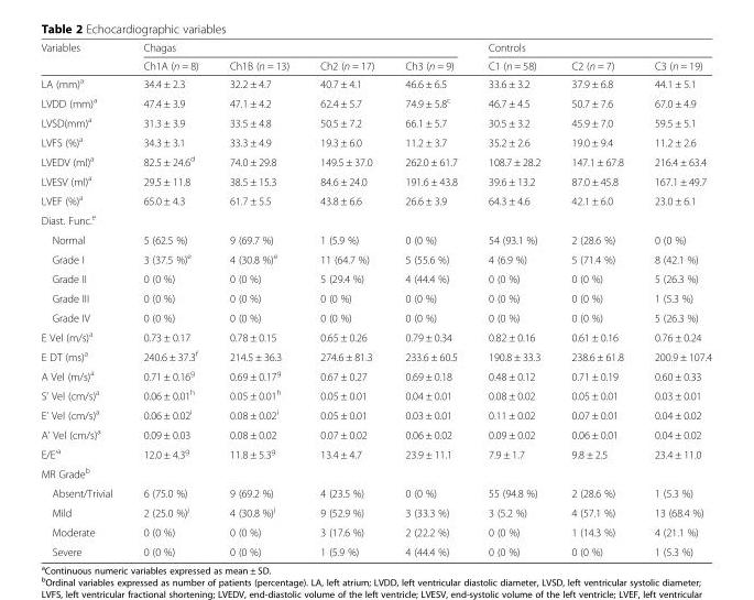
<table><thead><tr><td rowspan="2">Variables</td><td colspan="4">Chagas</td><td colspan="3">Controls</td></tr><tr><td>Ch1A (n = 8)</td><td>Ch1B (n = 13)</td><td>Ch2 (n = 17)</td><td>Ch3 (n = 9)</td><td>C1 (n = 58)</td><td>C2 (n = 7)</td><td>C3 (n = 19)</td></tr></thead><tbody><tr><td>LA (mm)<sup>a</sup></td><td>34.4 ± 2.3</td><td>32.2 ± 4.7</td><td>40.7 ± 4.1</td><td>46.6 ± 6.5</td><td>33.6 ± 3.2</td><td>37.9 ± 6.8</td><td>44.1 ± 5.1</td></tr><tr><td>LVDD (mm)<sup>a</sup></td><td>47.4 ± 3.9</td><td>47.1 ± 4.2</td><td>62.4 ± 5.7</td><td>74.9 ± 5.8<sup>c</sup></td><td>46.7 ± 4.5</td><td>50.7 ± 7.6</td><td>67.0 ± 4.9</td></tr><tr><td>LVSD(mm)<sup>a</sup></td><td>31.3 ± 3.9</td><td>33.5 ± 4.8</td><td>50.5 ± 7.2</td><td>66.1 ± 5.7</td><td>30.5 ± 3.2</td><td>45.9 ± 7.0</td><td>59.5 ± 5.1</td></tr><tr><td>LVFS (%)<sup>a</sup></td><td>34.3 ± 3.1</td><td>33.3 ± 4.9</td><td>19.3 ± 6.0</td><td>11.2 ± 3.7</td><td>35.2 ± 2.6</td><td>19.0 ± 9.4</td><td>11.2 ± 2.6</td></tr><tr><td>LVEDV (ml)<sup>a</sup></td><td>82.5 ± 24.6<sup>d</sup></td><td>74.0 ± 29.8</td><td>149.5 ± 37.0</td><td>262.0 ± 61.7</td><td>108.7 ± 28.2</td><td>147.1 ± 67.8</td><td>216.4 ± 63.4</td></tr><tr><td>LVESV (ml)<sup>a</sup></td><td>29.5 ± 11.8</td><td>38.5 ± 15.3</td><td>84.6 ± 24.0</td><td>191.6 ± 43.8</td><td>39.6 ± 13.2</td><td>87.0 ± 45.8</td><td>167.1 ± 49.7</td></tr><tr><td>LVEF (%)<sup>a</sup></td><td>65.0 ± 4.3</td><td>61.7 ± 5.5</td><td>43.8 ± 6.6</td><td>26.6 ± 3.9</td><td>64.3 ± 4.6</td><td>42.1 ± 6.0</td><td>23.0 ± 6.1</td></tr><tr><td colspan="8">Diast. Func.<sup>e</sup></td></tr><tr><td>Normal</td><td>5 (62.5 %)</td><td>9 (69.7 %)</td><td>1 (5.9 %)</td><td>0 (0 %)</td><td>54 (93.1 %)</td><td>2 (28.6 %)</td><td>0 (0 %)</td></tr><tr><td>Grade I</td><td>3 (37.5 %)<sup>e</sup></td><td>4 (30.8 %)<sup>e</sup></td><td>11 (64.7 %)</td><td>5 (55.6 %)</td><td>4 (6.9 %)</td><td>5 (71.4 %)</td><td>8 (42.1 %)</td></tr><tr><td>Grade II</td><td>0 (0 %)</td><td>0 (0 %)</td><td>5 (29.4 %)</td><td>4 (44.4 %)</td><td>0 (0 %)</td><td>0 (0 %)</td><td>5 (26.3 %)</td></tr><tr><td>Grade III</td><td>0 (0 %)</td><td>0 (0 %)</td><td>0 (0 %)</td><td>0 (0 %)</td><td>0 (0 %)</td><td>0 (0 %)</td><td>1 (5.3 %)</td></tr><tr><td>Grade IV</td><td>0 (0 %)</td><td>0 (0 %)</td><td>0 (0 %)</td><td>0 (0 %)</td><td>0 (0 %)</td><td>0 (0 %)</td><td>5 (26.3 %)</td></tr><tr><td>E Vel (m/s)<sup>a</sup></td><td>0.73 ± 0.17</td><td>0.78 ± 0.15</td><td>0.65 ± 0.26</td><td>0.79 ± 0.34</td><td>0.82 ± 0.16</td><td>0.61 ± 0.16</td><td>0.76 ± 0.24</td></tr><tr><td>E DT (ms)<sup>a</sup></td><td>240.6 ± 37.3<sup>f</sup></td><td>214.5 ± 36.3</td><td>274.6 ± 81.3</td><td>233.6 ± 60.5</td><td>190.8 ± 33.3</td><td>238.6 ± 61.8</td><td>200.9 ± 107.4</td></tr><tr><td>A Vel (m/s)<sup>a</sup></td><td>0.71 ± 0.16<sup>g</sup></td><td>0.69 ± 0.17<sup>g</sup></td><td>0.67 ± 0.27</td><td>0.69 ± 0.18</td><td>0.48 ± 0.12</td><td>0.71 ± 0.19</td><td>0.60 ± 0.33</td></tr><tr><td>S’ Vel (cm/s)<sup>a</sup></td><td>0.06 ± 0.01<sup>h</sup></td><td>0.05 ± 0.01<sup>h</sup></td><td>0.05 ± 0.01</td><td>0.04 ± 0.01</td><td>0.08 ± 0.02</td><td>0.05 ± 0.01</td><td>0.03 ± 0.01</td></tr><tr><td>E’ Vel (cm/s)<sup>a</sup></td><td>0.06 ± 0.02<sup>i</sup></td><td>0.08 ± 0.02<sup>i</sup></td><td>0.05 ± 0.01</td><td>0.03 ± 0.01</td><td>0.11 ± 0.02</td><td>0.07 ± 0.01</td><td>0.04 ± 0.02</td></tr><tr><td>A’ Vel (cm/s)<sup>a</sup></td><td>0.09 ± 0.03</td><td>0.08 ± 0.02</td><td>0.07 ± 0.02</td><td>0.06 ± 0.02</td><td>0.09 ± 0.02</td><td>0.06 ± 0.01</td><td>0.04 ± 0.02</td></tr><tr><td>E/E’<sup>a</sup></td><td>12.0 ± 4.3<sup>g</sup></td><td>11.8 ± 5.3<sup>g</sup></td><td>13.4 ± 4.7</td><td>23.9 ± 11.1</td><td>7.9 ± 1.7</td><td>9.8 ± 2.5</td><td>23.4 ± 11.0</td></tr><tr><td colspan="8">MR Grade<sup>b</sup></td></tr><tr><td>Absent/Trivial</td><td>6 (75.0 %)</td><td>9 (69.2 %)</td><td>4 (23.5 %)</td><td>0 (0 %)</td><td>55 (94.8 %)</td><td>2 (28.6 %)</td><td>1 (5.3 %)</td></tr><tr><td>Mild</td><td>2 (25.0 %)<sup>j</sup></td><td>4 (30.8 %)<sup>j</sup></td><td>9 (52.9 %)</td><td>3 (33.3 %)</td><td>3 (5.2 %)</td><td>4 (57.1 %)</td><td>13 (68.4 %)</td></tr><tr><td>Moderate</td><td>0 (0 %)</td><td>0 (0 %)</td><td>3 (17.6 %)</td><td>2 (22.2 %)</td><td>0 (0 %)</td><td>1 (14.3 %)</td><td>4 (21.1 %)</td></tr><tr><td>Severe</td><td>0 (0 %)</td><td>0 (0 %)</td><td>1 (5.9 %)</td><td>4 (44.4 %)</td><td>0 (0 %)</td><td>0 (0 %)</td><td>1 (5.3 %)</td></tr></tbody></table>